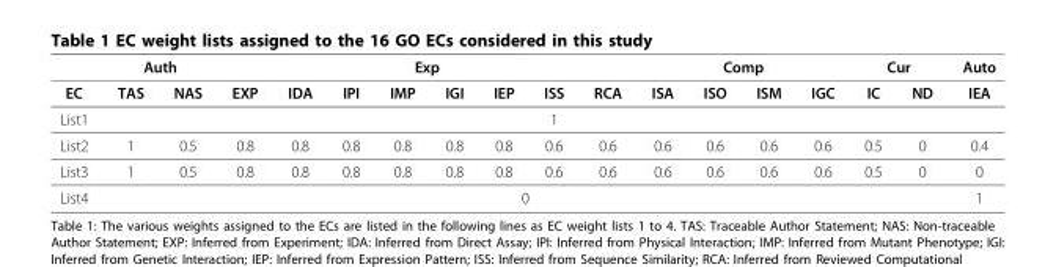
<table><thead><tr><td rowspan="2">EC</td><td colspan="2">Auth</td><td colspan="8">Exp</td><td colspan="4">Comp</td><td colspan="2">Cur</td><td rowspan="2">Auto IEA</td></tr><tr><td>TAS</td><td>NAS</td><td>EXP</td><td>IDA</td><td>IPI</td><td>IMP</td><td>IGI</td><td>IEP</td><td>ISS</td><td>RCA</td><td>ISA</td><td>ISO</td><td>ISM</td><td>IGC</td><td>IC</td><td>ND</td></tr></thead><tbody><tr><td>List1</td><td></td><td></td><td></td><td></td><td></td><td></td><td></td><td></td><td>1</td><td></td><td></td><td></td><td></td><td></td><td></td><td></td><td></td></tr><tr><td>List2</td><td>1</td><td>0.5</td><td>0.8</td><td>0.8</td><td>0.8</td><td>0.8</td><td>0.8</td><td>0.8</td><td>0.6</td><td>0.6</td><td>0.6</td><td>0.6</td><td>0.6</td><td>0.6</td><td>0.5</td><td>0</td><td>0.4</td></tr><tr><td>List3</td><td>1</td><td>0.5</td><td>0.8</td><td>0.8</td><td>0.8</td><td>0.8</td><td>0.8</td><td>0.8</td><td>0.6</td><td>0.6</td><td>0.6</td><td>0.6</td><td>0.6</td><td>0.6</td><td>0.5</td><td>0</td><td>0</td></tr><tr><td>List4</td><td colspan="16">0</td><td>1</td></tr></tbody></table>